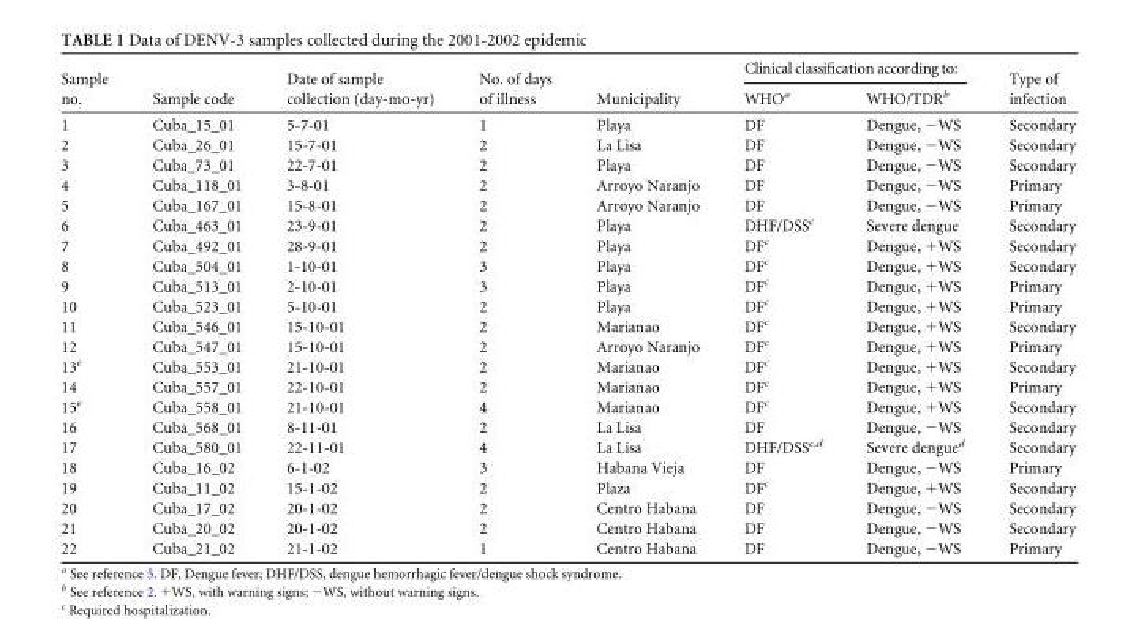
<table><thead><tr><td rowspan="2">Sample no.</td><td rowspan="2">Sample code</td><td rowspan="2">Date of sample collection (day-mo-yr)</td><td rowspan="2">No. of days of illness</td><td rowspan="2">Municipality</td><td colspan="2">Clinical classification according to:</td><td rowspan="2">Type of infection</td></tr><tr><td>WHO<sup>a</sup></td><td>WHO/TDR<sup>b</sup></td></tr></thead><tbody><tr><td>1</td><td>Cuba_15_01</td><td>5-7-01</td><td>1</td><td>Playa</td><td>DF</td><td>Dengue, −WS</td><td>Secondary</td></tr><tr><td>2</td><td>Cuba_26_01</td><td>15-7-01</td><td>2</td><td>La Lisa</td><td>DF</td><td>Dengue, −WS</td><td>Secondary</td></tr><tr><td>3</td><td>Cuba_73_01</td><td>22-7-01</td><td>2</td><td>Playa</td><td>DF</td><td>Dengue, −WS</td><td>Secondary</td></tr><tr><td>4</td><td>Cuba_118_01</td><td>3-8-01</td><td>2</td><td>Arroyo Naranjo</td><td>DF</td><td>Dengue, −WS</td><td>Primary</td></tr><tr><td>5</td><td>Cuba_167_01</td><td>15-8-01</td><td>2</td><td>Arroyo Naranjo</td><td>DF</td><td>Dengue, −WS</td><td>Primary</td></tr><tr><td>6</td><td>Cuba_463_01</td><td>23-9-01</td><td>2</td><td>Playa</td><td>DHF/DSS<sup>c</sup></td><td>Severe dengue</td><td>Secondary</td></tr><tr><td>7</td><td>Cuba_492_01</td><td>28-9-01</td><td>2</td><td>Playa</td><td>DF<sup>c</sup></td><td>Dengue, +WS</td><td>Secondary</td></tr><tr><td>8</td><td>Cuba_504_01</td><td>1-10-01</td><td>3</td><td>Playa</td><td>DF<sup>c</sup></td><td>Dengue, +WS</td><td>Secondary</td></tr><tr><td>9</td><td>Cuba_513_01</td><td>2-10-01</td><td>3</td><td>Playa</td><td>DF<sup>c</sup></td><td>Dengue, +WS</td><td>Primary</td></tr><tr><td>10</td><td>Cuba_523_01</td><td>5-10-01</td><td>2</td><td>Playa</td><td>DF<sup>c</sup></td><td>Dengue, +WS</td><td>Primary</td></tr><tr><td>11</td><td>Cuba_546_01</td><td>15-10-01</td><td>2</td><td>Marianao</td><td>DF<sup>c</sup></td><td>Dengue, +WS</td><td>Secondary</td></tr><tr><td>12</td><td>Cuba_547_01</td><td>15-10-01</td><td>2</td><td>Arroyo Naranjo</td><td>DF<sup>c</sup></td><td>Dengue, +WS</td><td>Primary</td></tr><tr><td>13<sup>e</sup></td><td>Cuba_553_01</td><td>21-10-01</td><td>2</td><td>Marianao</td><td>DF<sup>c</sup></td><td>Dengue, +WS</td><td>Secondary</td></tr><tr><td>14</td><td>Cuba_557_01</td><td>22-10-01</td><td>2</td><td>Marianao</td><td>DF<sup>c</sup></td><td>Dengue, +WS</td><td>Primary</td></tr><tr><td>15<sup>e</sup></td><td>Cuba_558_01</td><td>21-10-01</td><td>4</td><td>Marianao</td><td>DF<sup>c</sup></td><td>Dengue, +WS</td><td>Secondary</td></tr><tr><td>16</td><td>Cuba_568_01</td><td>8-11-01</td><td>2</td><td>La Lisa</td><td>DF</td><td>Dengue, −WS</td><td>Secondary</td></tr><tr><td>17</td><td>Cuba_580_01</td><td>22-11-01</td><td>4</td><td>La Lisa</td><td>DHF/DSS<sup>c,d</sup></td><td>Severe dengue<sup>d</sup></td><td>Secondary</td></tr><tr><td>18</td><td>Cuba_16_02</td><td>6-1-02</td><td>3</td><td>Habana Vieja</td><td>DF</td><td>Dengue, −WS</td><td>Primary</td></tr><tr><td>19</td><td>Cuba_11_02</td><td>15-1-02</td><td>2</td><td>Plaza</td><td>DF<sup>c</sup></td><td>Dengue, +WS</td><td>Secondary</td></tr><tr><td>20</td><td>Cuba_17_02</td><td>20-1-02</td><td>2</td><td>Centro Habana</td><td>DF</td><td>Dengue, −WS</td><td>Secondary</td></tr><tr><td>21</td><td>Cuba_20_02</td><td>20-1-02</td><td>2</td><td>Centro Habana</td><td>DF</td><td>Dengue, −WS</td><td>Secondary</td></tr><tr><td>22</td><td>Cuba_21_02</td><td>21-1-02</td><td>1</td><td>Centro Habana</td><td>DF</td><td>Dengue, −WS</td><td>Primary</td></tr></tbody></table>